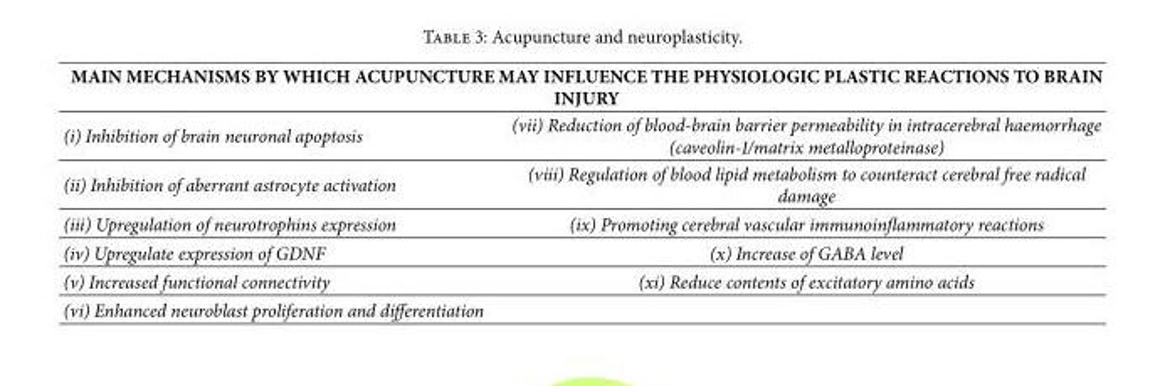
<table><tbody><tr><td colspan="2">MAIN MECHANISMS BY WHICH ACUPUNCTURE MAY INFLUENCE THE PHYSIOLOGIC PLASTIC REACTIONS TO BRAIN INJURY</td></tr><tr><td>(i) Inhibition of brain neuronal apoptosis</td><td>(vii) Reduction of blood-brain barrier permeability in intracerebral haemorrhage (caveolin-1/matrix metalloproteinase)</td></tr><tr><td>(ii) Inhibition of aberrant astrocyte activation</td><td>(viii) Regulation of blood lipid metabolism to counteract cerebral free radical damage</td></tr><tr><td>(iii) Upregulation of neurotrophins expression</td><td>(ix) Promoting cerebral vascular immunoinflammatory reactions</td></tr><tr><td>(iv) Upregulate expression of GDNF</td><td>(x) Increase of GABA level</td></tr><tr><td>(v) Increased functional connectivity</td><td>(xi) Reduce contents of excitatory amino acids</td></tr><tr><td>(vi) Enhanced neuroblast proliferation and differentiation</td><td></td></tr></tbody></table>